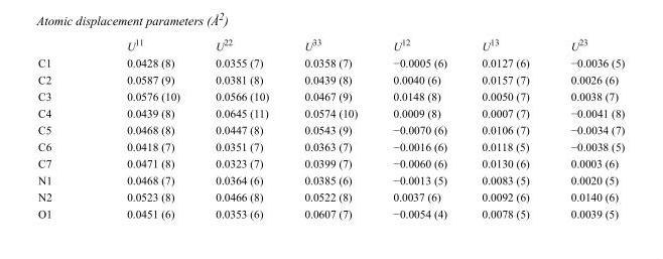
<table><thead><tr><td></td><td>U<sup>11</sup></td><td>U<sup>22</sup></td><td>U<sup>33</sup></td><td>U<sup>12</sup></td><td>U<sup>13</sup></td><td>U<sup>23</sup></td></tr></thead><tbody><tr><td>C1</td><td>0.0428 (8)</td><td>0.0355 (7)</td><td>0.0358 (7)</td><td>−0.0005 (6)</td><td>0.0127 (6)</td><td>−0.0036 (5)</td></tr><tr><td>C2</td><td>0.0587 (9)</td><td>0.0381 (8)</td><td>0.0439 (8)</td><td>0.0040 (6)</td><td>0.0157 (7)</td><td>0.0026 (6)</td></tr><tr><td>C3</td><td>0.0576 (10)</td><td>0.0566 (10)</td><td>0.0467 (9)</td><td>0.0148 (8)</td><td>0.0050 (7)</td><td>0.0038 (7)</td></tr><tr><td>C4</td><td>0.0439 (8)</td><td>0.0645 (11)</td><td>0.0574 (10)</td><td>0.0009 (8)</td><td>0.0007 (7)</td><td>−0.0041 (8)</td></tr><tr><td>C5</td><td>0.0468 (8)</td><td>0.0447 (8)</td><td>0.0543 (9)</td><td>−0.0070 (6)</td><td>0.0106 (7)</td><td>−0.0034 (7)</td></tr><tr><td>C6</td><td>0.0418 (7)</td><td>0.0351 (7)</td><td>0.0363 (7)</td><td>−0.0016 (6)</td><td>0.0118 (5)</td><td>−0.0038 (5)</td></tr><tr><td>C7</td><td>0.0471 (8)</td><td>0.0323 (7)</td><td>0.0399 (7)</td><td>−0.0060 (6)</td><td>0.0130 (6)</td><td>0.0003 (6)</td></tr><tr><td>N1</td><td>0.0468 (7)</td><td>0.0364 (6)</td><td>0.0385 (6)</td><td>−0.0013 (5)</td><td>0.0083 (5)</td><td>0.0020 (5)</td></tr><tr><td>N2</td><td>0.0523 (8)</td><td>0.0466 (8)</td><td>0.0522 (8)</td><td>0.0037 (6)</td><td>0.0092 (6)</td><td>0.0140 (6)</td></tr><tr><td>O1</td><td>0.0451 (6)</td><td>0.0353 (6)</td><td>0.0607 (7)</td><td>−0.0054 (4)</td><td>0.0078 (5)</td><td>0.0039 (5)</td></tr></tbody></table>